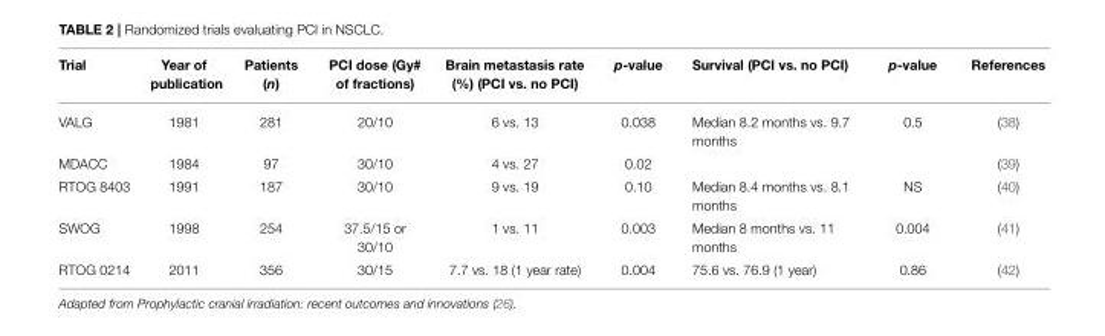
<table><thead><tr><td>Trial</td><td>Year of publication</td><td>Patients (n)</td><td>PCI dose (Gy# of fractions)</td><td>Brain metastasis rate (%) (PCI vs. no PCI)</td><td>p-value</td><td>Survival (PCI vs. no PCI)</td><td>p-value</td><td>References</td></tr></thead><tbody><tr><td>VALG</td><td>1981</td><td>281</td><td>20/10</td><td>6 vs. 13</td><td>0.038</td><td>Median 8.2 months vs. 9.7 months</td><td>0.5</td><td>(38)</td></tr><tr><td>MDACC</td><td>1984</td><td>97</td><td>30/10</td><td>4 vs. 27</td><td>0.02</td><td></td><td></td><td>(39)</td></tr><tr><td>RTOG 8403</td><td>1991</td><td>187</td><td>30/10</td><td>9 vs. 19</td><td>0.10</td><td>Median 8.4 months vs. 8.1 months</td><td>NS</td><td>(40)</td></tr><tr><td>SWOG</td><td>1998</td><td>254</td><td>37.5/15 or 30/10</td><td>1 vs. 11</td><td>0.003</td><td>Median 8 months vs. 11 months</td><td>0.004</td><td>(41)</td></tr><tr><td>RTOG 0214</td><td>2011</td><td>356</td><td>30/15</td><td>7.7 vs. 18 (1 year rate)</td><td>0.004</td><td>75.6 vs. 76.9 (1 year)</td><td>0.86</td><td>(42)</td></tr></tbody></table>